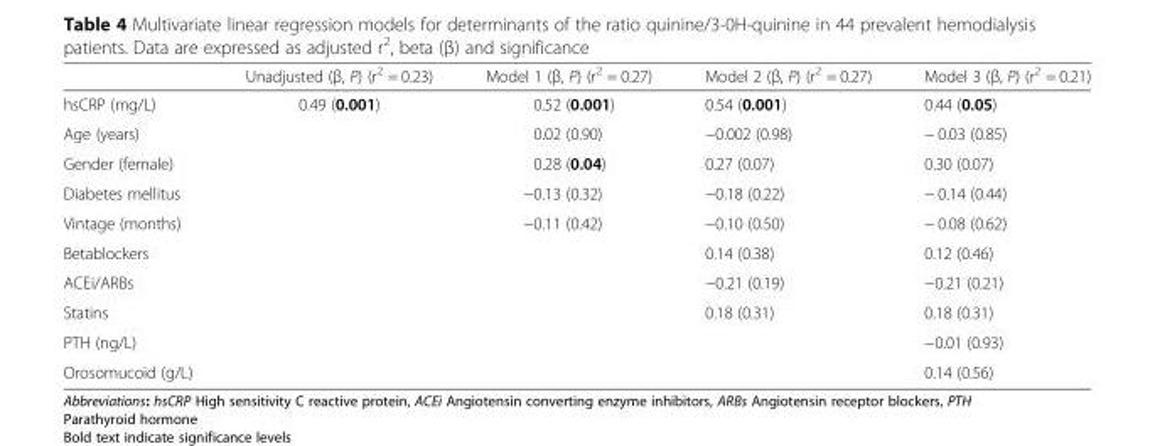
<table><thead><tr><td></td><td>Unadjusted (β, P) (r<sup>2</sup> = 0.23)</td><td>Model 1 (β, P) (r<sup>2</sup> = 0.27)</td><td>Model 2 (β, P) (r<sup>2</sup> = 0.27)</td><td>Model 3 (β, P) (r<sup>2</sup> = 0.21)</td></tr></thead><tbody><tr><td>hsCRP (mg/L)</td><td>0.49 (0.001)</td><td>0.52 (0.001)</td><td>0.54 (0.001)</td><td>0.44 (0.05)</td></tr><tr><td>Age (years)</td><td></td><td>0.02 (0.90)</td><td>−0.002 (0.98)</td><td>− 0.03 (0.85)</td></tr><tr><td>Gender (female)</td><td></td><td>0.28 (0.04)</td><td>0.27 (0.07)</td><td>0.30 (0.07)</td></tr><tr><td>Diabetes mellitus</td><td></td><td>−0.13 (0.32)</td><td>−0.18 (0.22)</td><td>− 0.14 (0.44)</td></tr><tr><td>Vintage (months)</td><td></td><td>−0.11 (0.42)</td><td>−0.10 (0.50)</td><td>− 0.08 (0.62)</td></tr><tr><td>Betablockers</td><td></td><td></td><td>0.14 (0.38)</td><td>0.12 (0.46)</td></tr><tr><td>ACEi/ARBs</td><td></td><td></td><td>−0.21 (0.19)</td><td>−0.21 (0.21)</td></tr><tr><td>Statins</td><td></td><td></td><td>0.18 (0.31)</td><td>0.18 (0.31)</td></tr><tr><td>PTH (ng/L)</td><td></td><td></td><td></td><td>−0.01 (0.93)</td></tr><tr><td>Orosomucoid (g/L)</td><td></td><td></td><td></td><td>0.14 (0.56)</td></tr></tbody></table>